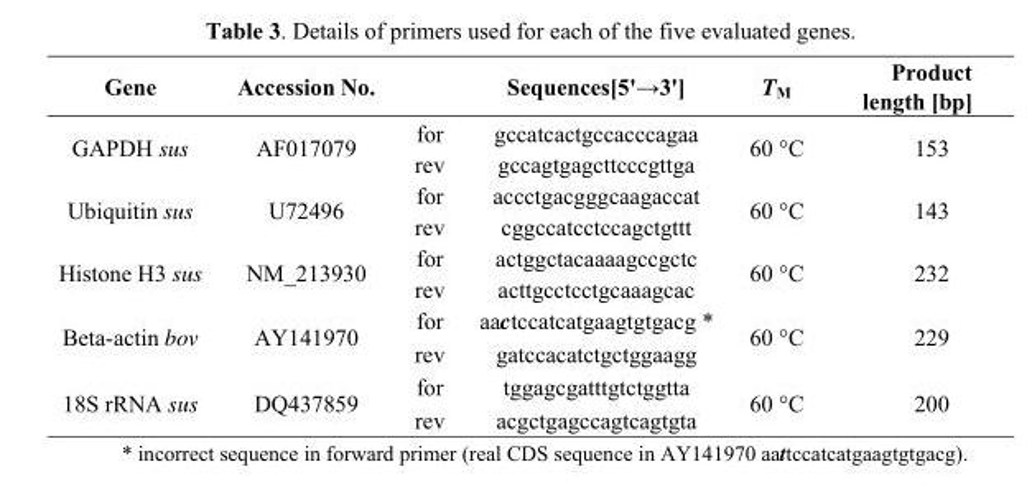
<table><thead><tr><td>Gene</td><td>Accession No.</td><td></td><td>Sequences[5&#x27;→3&#x27;]</td><td>T<sub>M</sub></td><td>Product length [bp]</td></tr></thead><tbody><tr><td rowspan="2">GAPDH sus</td><td rowspan="2">AF017079</td><td>for</td><td>gccatcactgccacccagaa</td><td rowspan="2">60 °C</td><td rowspan="2">153</td></tr><tr><td>rev</td><td>gccagtgagcttcccgttga</td></tr><tr><td rowspan="2">Ubiquitin sus</td><td rowspan="2">U72496</td><td>for</td><td>accctgacgggcaagaccat</td><td rowspan="2">60 °C</td><td rowspan="2">143</td></tr><tr><td>rev</td><td>cggccatcctccagctgttt</td></tr><tr><td rowspan="2">Histone H3 sus</td><td rowspan="2">NM_213930</td><td>for</td><td>actggctacaaaagccgctc</td><td rowspan="2">60 °C</td><td rowspan="2">232</td></tr><tr><td>rev</td><td>acttgcctcctgcaaagcac</td></tr><tr><td rowspan="2">Beta-actin bov</td><td rowspan="2">AY141970</td><td>for</td><td>aactccatcatgaagtgtgacg *</td><td rowspan="2">60 °C</td><td rowspan="2">229</td></tr><tr><td>rev</td><td>gatccacatctgctggaagg</td></tr><tr><td rowspan="2">18S rRNA sus</td><td rowspan="2">DQ437859</td><td>for</td><td>tggagcgatttgtctggtta</td><td rowspan="2">60 °C</td><td rowspan="2">200</td></tr><tr><td>rev</td><td>acgctgagccagtcagtgta</td></tr></tbody></table>